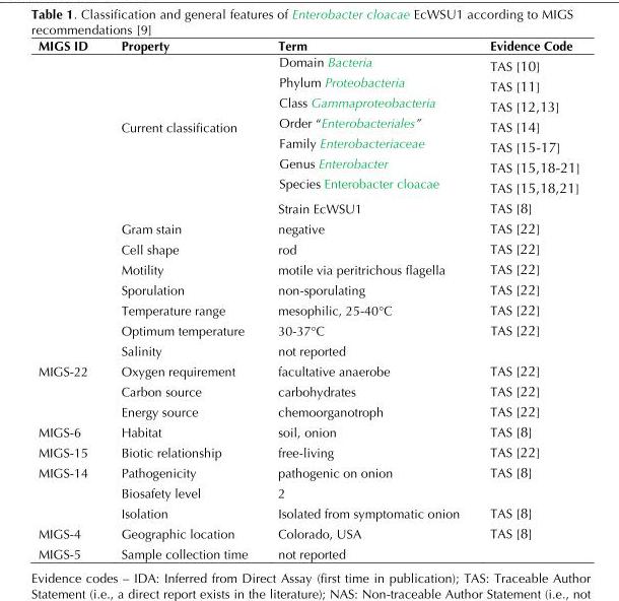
<table><thead><tr><td>MIGS ID</td><td>Property</td><td>Term</td><td>Evidence Code</td></tr></thead><tbody><tr><td></td><td></td><td>Domain Bacteria</td><td>TAS [10]</td></tr><tr><td></td><td></td><td>Phylum Proteobacteria</td><td>TAS [11]</td></tr><tr><td></td><td></td><td>Class Gammaproteobacteria</td><td>TAS [12,13]</td></tr><tr><td></td><td>Current classification</td><td>Order “Enterobacteriales”</td><td>TAS [14]</td></tr><tr><td></td><td></td><td>Family Enterobacteriaceae</td><td>TAS [15-17]</td></tr><tr><td></td><td></td><td>Genus Enterobacter</td><td>TAS [15,18-21]</td></tr><tr><td></td><td></td><td>Species Enterobacter cloacae</td><td>TAS [15,18,21]</td></tr><tr><td></td><td></td><td>Strain EcWSU1</td><td>TAS [8]</td></tr><tr><td></td><td>Gram stain</td><td>negative</td><td>TAS [22]</td></tr><tr><td></td><td>Cell shape</td><td>rod</td><td>TAS [22]</td></tr><tr><td></td><td>Motility</td><td>motile via peritrichous flagella</td><td>TAS [22]</td></tr><tr><td></td><td>Sporulation</td><td>non-sporulating</td><td>TAS [22]</td></tr><tr><td></td><td>Temperature range</td><td>mesophilic, 25-40°C</td><td>TAS [22]</td></tr><tr><td></td><td>Optimum temperature</td><td>30-37°C</td><td>TAS [22]</td></tr><tr><td></td><td>Salinity</td><td>not reported</td><td></td></tr><tr><td rowspan="3">MIGS-22</td><td>Oxygen requirement</td><td>facultative anaerobe</td><td>TAS [22]</td></tr><tr><td>Carbon source</td><td>carbohydrates</td><td>TAS [22]</td></tr><tr><td>Energy source</td><td>chemoorganotroph</td><td>TAS [22]</td></tr><tr><td>MIGS-6</td><td>Habitat</td><td>soil, onion</td><td>TAS [8]</td></tr><tr><td>MIGS-15</td><td>Biotic relationship</td><td>free-living</td><td>TAS [22]</td></tr><tr><td rowspan="3">MIGS-14</td><td>Pathogenicity</td><td>pathogenic on onion</td><td>TAS [8]</td></tr><tr><td>Biosafety level</td><td>2</td><td></td></tr><tr><td>Isolation</td><td>Isolated from symptomatic onion</td><td>TAS [8]</td></tr><tr><td>MIGS-4</td><td>Geographic location</td><td>Colorado, USA</td><td>TAS [8]</td></tr><tr><td>MIGS-5</td><td>Sample collection time</td><td>not reported</td><td></td></tr></tbody></table>